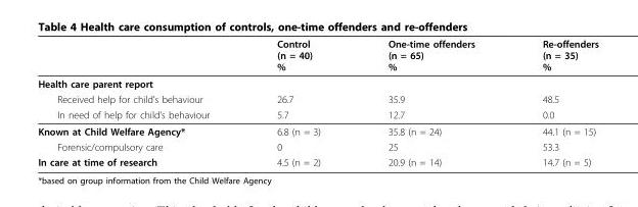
<table><thead><tr><td></td><td>Control (n = 40) %</td><td>One-time offenders (n = 65) %</td><td>Re-offenders (n = 35) %</td></tr></thead><tbody><tr><td colspan="4">Health care parent report</td></tr><tr><td>Received help for child’s behaviour</td><td>26.7</td><td>35.9</td><td>48.5</td></tr><tr><td>In need of help for child’s behaviour</td><td>5.7</td><td>12.7</td><td>0.0</td></tr><tr><td>Known at Child Welfare Agency*</td><td>6.8 (n = 3)</td><td>35.8 (n = 24)</td><td>44.1 (n = 15)</td></tr><tr><td>Forensic/compulsory care</td><td>0</td><td>25</td><td>53.3</td></tr><tr><td>In care at time of research</td><td>4.5 (n = 2)</td><td>20.9 (n = 14)</td><td>14.7 (n = 5)</td></tr></tbody></table>